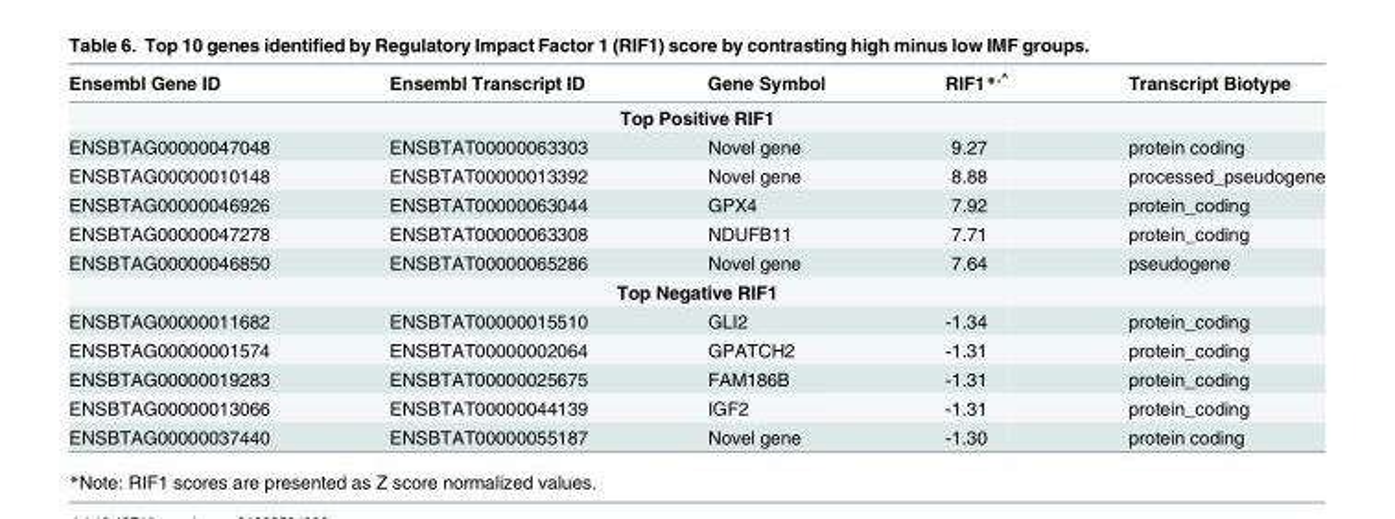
<table><thead><tr><td>Ensembl Gene ID</td><td>Ensembl Transcript ID</td><td>Gene Symbol</td><td>RIF1*,^</td><td>Transcript Biotype</td></tr></thead><tbody><tr><td colspan="5">Top Positive RIF1</td></tr><tr><td>ENSBTAG00000047048</td><td>ENSBTAT00000063303</td><td>Novel gene</td><td>9.27</td><td>protein coding</td></tr><tr><td>ENSBTAG00000010148</td><td>ENSBTAT00000013392</td><td>Novel gene</td><td>8.88</td><td>processed_pseudogene</td></tr><tr><td>ENSBTAG00000046926</td><td>ENSBTAT00000063044</td><td>GPX4</td><td>7.92</td><td>protein_coding</td></tr><tr><td>ENSBTAG00000047278</td><td>ENSBTAT00000063308</td><td>NDUFB11</td><td>7.71</td><td>protein_coding</td></tr><tr><td>ENSBTAG00000046850</td><td>ENSBTAT00000065286</td><td>Novel gene</td><td>7.64</td><td>pseudogene</td></tr><tr><td colspan="5">Top Negative RIF1</td></tr><tr><td>ENSBTAG00000011682</td><td>ENSBTAT00000015510</td><td>GLI2</td><td>-1.34</td><td>protein_coding</td></tr><tr><td>ENSBTAG00000001574</td><td>ENSBTAT00000002064</td><td>GPATCH2</td><td>-1.31</td><td>protein_coding</td></tr><tr><td>ENSBTAG00000019283</td><td>ENSBTAT00000025675</td><td>FAM186B</td><td>-1.31</td><td>protein_coding</td></tr><tr><td>ENSBTAG00000013066</td><td>ENSBTAT00000044139</td><td>IGF2</td><td>-1.31</td><td>protein_coding</td></tr><tr><td>ENSBTAG00000037440</td><td>ENSBTAT00000055187</td><td>Novel gene</td><td>-1.30</td><td>protein coding</td></tr></tbody></table>